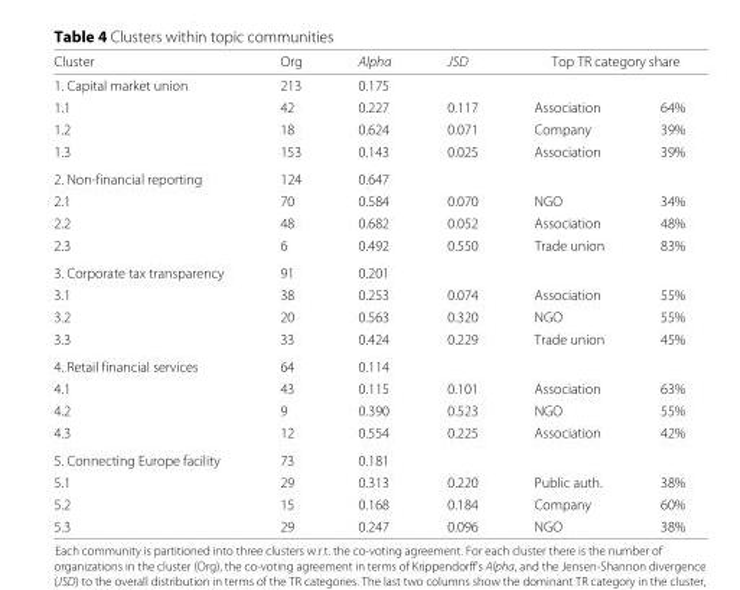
<table><thead><tr><td rowspan="2">Cluster 1. Capital market union</td><td rowspan="2">Org 213</td><td rowspan="2">Alpha 0.175</td><td rowspan="2">JSD</td><td colspan="2">Top TR category share</td></tr><tr><td></td><td></td></tr></thead><tbody><tr><td>1.1</td><td>42</td><td>0.227</td><td>0.117</td><td>Association</td><td>64%</td></tr><tr><td>1.2</td><td>18</td><td>0.624</td><td>0.071</td><td>Company</td><td>39%</td></tr><tr><td>1.3</td><td>153</td><td>0.143</td><td>0.025</td><td>Association</td><td>39%</td></tr><tr><td>2. Non-financial reporting</td><td>124</td><td>0.647</td><td></td><td></td><td></td></tr><tr><td>2.1</td><td>70</td><td>0.584</td><td>0.070</td><td>NGO</td><td>34%</td></tr><tr><td>2.2</td><td>48</td><td>0.682</td><td>0.052</td><td>Association</td><td>48%</td></tr><tr><td>2.3</td><td>6</td><td>0.492</td><td>0.550</td><td>Trade union</td><td>83%</td></tr><tr><td>3. Corporate tax transparency</td><td>91</td><td>0.201</td><td></td><td></td><td></td></tr><tr><td>3.1</td><td>38</td><td>0.253</td><td>0.074</td><td>Association</td><td>55%</td></tr><tr><td>3.2</td><td>20</td><td>0.563</td><td>0.320</td><td>NGO</td><td>55%</td></tr><tr><td>3.3</td><td>33</td><td>0.424</td><td>0.229</td><td>Trade union</td><td>45%</td></tr><tr><td>4. Retail financial services</td><td>64</td><td>0.114</td><td></td><td></td><td></td></tr><tr><td>4.1</td><td>43</td><td>0.115</td><td>0.101</td><td>Association</td><td>63%</td></tr><tr><td>4.2</td><td>9</td><td>0.390</td><td>0.523</td><td>NGO</td><td>55%</td></tr><tr><td>4.3</td><td>12</td><td>0.554</td><td>0.225</td><td>Association</td><td>42%</td></tr><tr><td>5. Connecting Europe facility</td><td>73</td><td>0.181</td><td></td><td></td><td></td></tr><tr><td>5.1</td><td>29</td><td>0.313</td><td>0.220</td><td>Public auth.</td><td>38%</td></tr><tr><td>5.2</td><td>15</td><td>0.168</td><td>0.184</td><td>Company</td><td>60%</td></tr><tr><td>5.3</td><td>29</td><td>0.247</td><td>0.096</td><td>NGO</td><td>38%</td></tr></tbody></table>